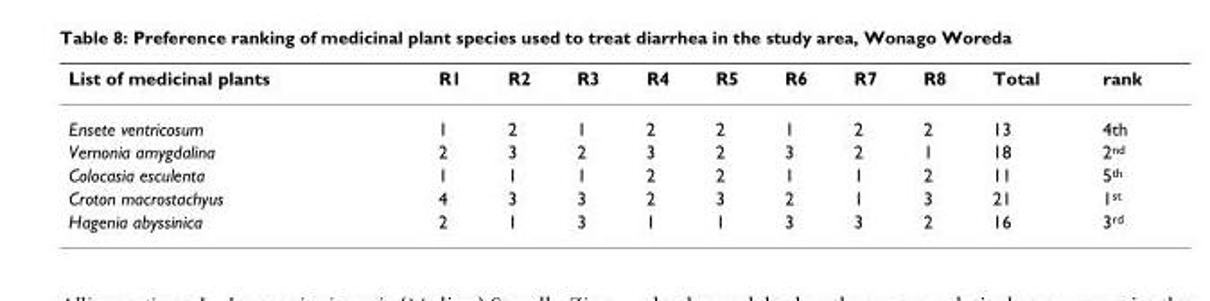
<table><thead><tr><td>List of medicinal plants</td><td>R1</td><td>R2</td><td>R3</td><td>R4</td><td>R5</td><td>R6</td><td>R7</td><td>R8</td><td>Total</td><td>rank</td></tr></thead><tbody><tr><td>Ensete ventricosum</td><td>1</td><td>2</td><td>1</td><td>2</td><td>2</td><td>1</td><td>2</td><td>2</td><td>13</td><td>4th</td></tr><tr><td>Vernonia amygdalina</td><td>2</td><td>3</td><td>2</td><td>3</td><td>2</td><td>3</td><td>2</td><td>1</td><td>18</td><td>2<sup>nd</sup></td></tr><tr><td>Colocasia esculenta</td><td>1</td><td>1</td><td>1</td><td>2</td><td>2</td><td>1</td><td>1</td><td>2</td><td>11</td><td>5<sup>th</sup></td></tr><tr><td>Croton macrostachyus</td><td>4</td><td>3</td><td>3</td><td>2</td><td>3</td><td>2</td><td>1</td><td>3</td><td>21</td><td>1<sup>st</sup></td></tr><tr><td>Hagenia abyssinica</td><td>2</td><td>1</td><td>3</td><td>1</td><td>1</td><td>3</td><td>3</td><td>2</td><td>16</td><td>3<sup>rd</sup></td></tr></tbody></table>